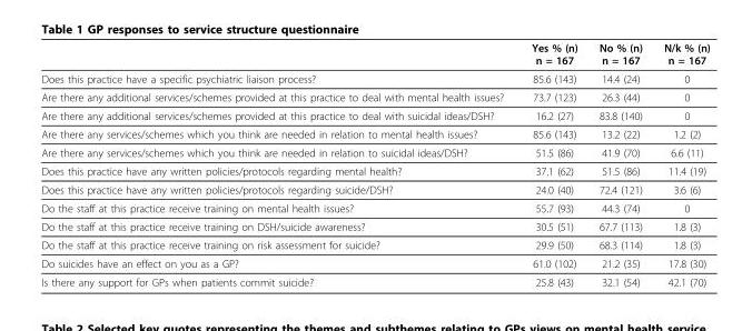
<table><thead><tr><td></td><td>Yes % (n) n = 167</td><td>No % (n) n = 167</td><td>N/k % (n) n = 167</td></tr></thead><tbody><tr><td>Does this practice have a specific psychiatric liaison process?</td><td>85.6 (143)</td><td>14.4 (24)</td><td>0</td></tr><tr><td>Are there any additional services/schemes provided at this practice to deal with mental health issues?</td><td>73.7 (123)</td><td>26.3 (44)</td><td>0</td></tr><tr><td>Are there any additional services/schemes provided at this practice to deal with suicidal ideas/DSH?</td><td>16.2 (27)</td><td>83.8 (140)</td><td>0</td></tr><tr><td>Are there any services/schemes which you think are needed in relation to mental health issues?</td><td>85.6 (143)</td><td>13.2 (22)</td><td>1.2 (2)</td></tr><tr><td>Are there any services/schemes which you think are needed in relation to suicidal ideas/DSH?</td><td>51.5 (86)</td><td>41.9 (70)</td><td>6.6 (11)</td></tr><tr><td>Does this practice have any written policies/protocols regarding mental health?</td><td>37.1 (62)</td><td>51.5 (86)</td><td>11.4 (19)</td></tr><tr><td>Does this practice have any written policies/protocols regarding suicide/DSH?</td><td>24.0 (40)</td><td>72.4 (121)</td><td>3.6 (6)</td></tr><tr><td>Do the staff at this practice receive training on mental health issues?</td><td>55.7 (93)</td><td>44.3 (74)</td><td>0</td></tr><tr><td>Do the staff at this practice receive training on DSH/suicide awareness?</td><td>30.5 (51)</td><td>67.7 (113)</td><td>1.8 (3)</td></tr><tr><td>Do the staff at this practice receive training on risk assessment for suicide?</td><td>29.9 (50)</td><td>68.3 (114)</td><td>1.8 (3)</td></tr><tr><td>Do suicides have an effect on you as a GP?</td><td>61.0 (102)</td><td>21.2 (35)</td><td>17.8 (30)</td></tr><tr><td>Is there any support for GPs when patients commit suicide?</td><td>25.8 (43)</td><td>32.1 (54)</td><td>42.1 (70)</td></tr></tbody></table>